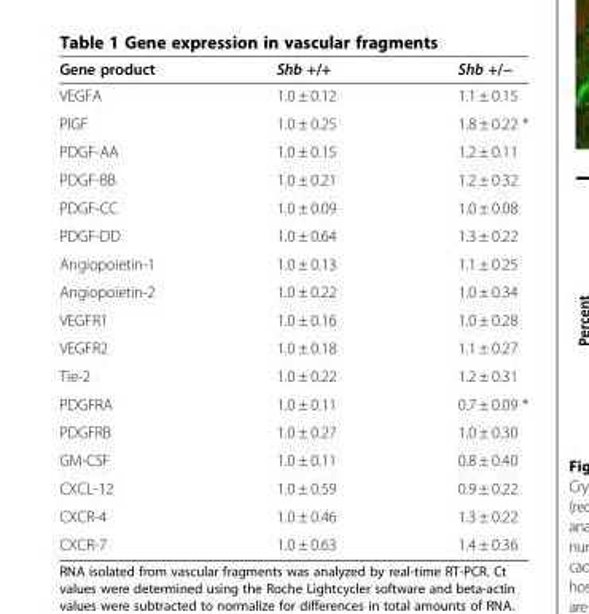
<table><thead><tr><td>Gene product</td><td>Shb +/+</td><td>Shb +/−</td></tr></thead><tbody><tr><td>VEGFA</td><td>1.0 ± 0.12</td><td>1.1 ± 0.15</td></tr><tr><td>PlGF</td><td>1.0 ± 0.25</td><td>1.8 ± 0.22 *</td></tr><tr><td>PDGF-AA</td><td>1.0 ± 0.15</td><td>1.2 ± 0.11</td></tr><tr><td>PDGF-BB</td><td>1.0 ± 0.21</td><td>1.2 ± 0.32</td></tr><tr><td>PDGF-CC</td><td>1.0 ± 0.09</td><td>1.0 ± 0.08</td></tr><tr><td>PDGF-DD</td><td>1.0 ± 0.64</td><td>1.3 ± 0.22</td></tr><tr><td>Angiopoietin-1</td><td>1.0 ± 0.13</td><td>1.1 ± 0.25</td></tr><tr><td>Angiopoietin-2</td><td>1.0 ± 0.22</td><td>1.0 ± 0.34</td></tr><tr><td>VEGFR1</td><td>1.0 ± 0.16</td><td>1.0 ± 0.28</td></tr><tr><td>VEGFR2</td><td>1.0 ± 0.18</td><td>1.1 ± 0.27</td></tr><tr><td>Tie-2</td><td>1.0 ± 0.22</td><td>1.2 ± 0.31</td></tr><tr><td>PDGFRA</td><td>1.0 ± 0.11</td><td>0.7 ± 0.09 *</td></tr><tr><td>PDGFRB</td><td>1.0 ± 0.27</td><td>1.0 ± 0.30</td></tr><tr><td>GM-CSF</td><td>1.0 ± 0.11</td><td>0.8 ± 0.40</td></tr><tr><td>CXCL-12</td><td>1.0 ± 0.59</td><td>0.9 ± 0.22</td></tr><tr><td>CXCR-4</td><td>1.0 ± 0.46</td><td>1.3 ± 0.22</td></tr><tr><td>CXCR-7</td><td>1.0 ± 0.63</td><td>1.4 ± 0.36</td></tr></tbody></table>